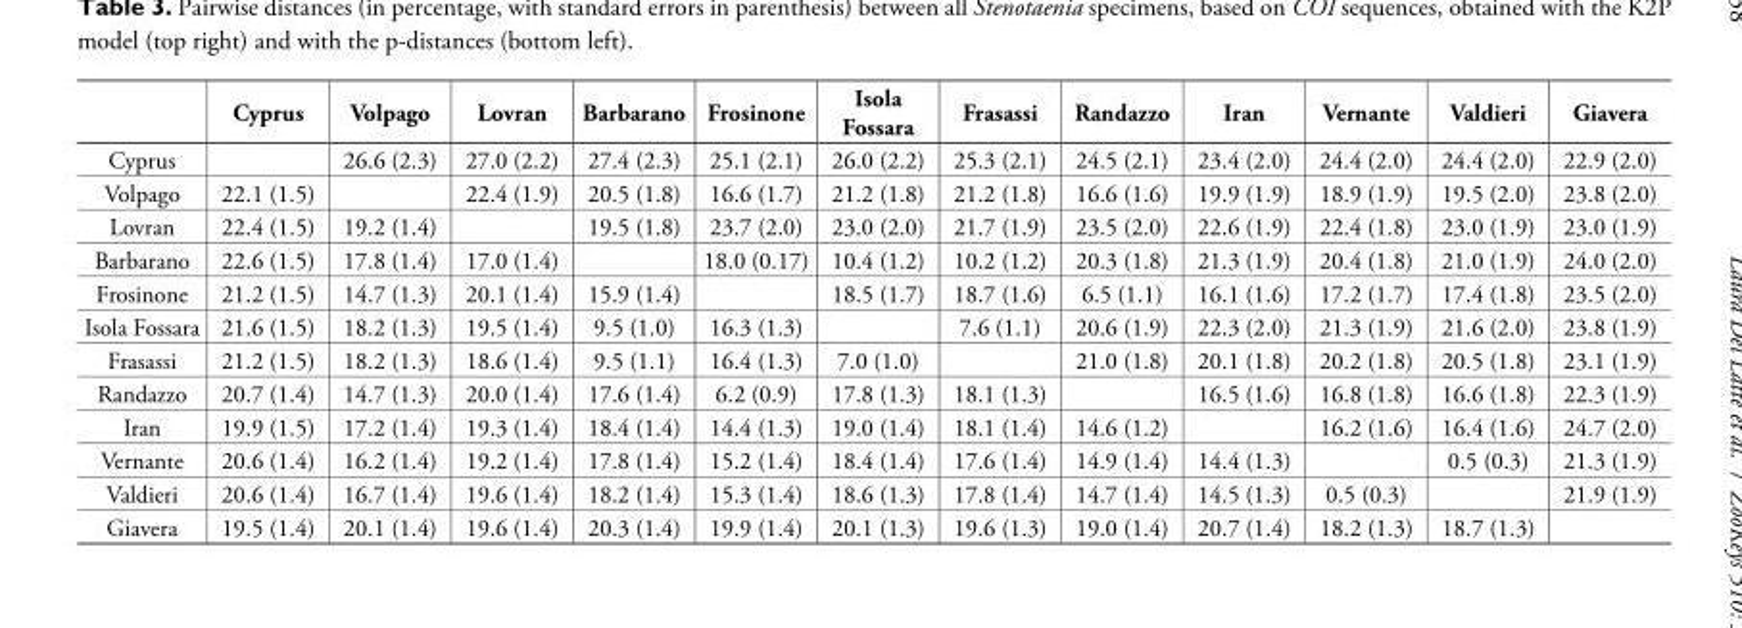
<table><thead><tr><td></td><td>Cyprus</td><td>Volpago</td><td>Lovran</td><td>Barbarano</td><td>Frosinone</td><td>Isola Fossara</td><td>Frasassi</td><td>Randazzo</td><td>Iran</td><td>Vernante</td><td>Valdieri</td><td>Giavera</td></tr></thead><tbody><tr><td>Cyprus</td><td></td><td>26.6 (2.3)</td><td>27.0 (2.2)</td><td>27.4 (2.3)</td><td>25.1 (2.1)</td><td>26.0 (2.2)</td><td>25.3 (2.1)</td><td>24.5 (2.1)</td><td>23.4 (2.0)</td><td>24.4 (2.0)</td><td>24.4 (2.0)</td><td>22.9 (2.0)</td></tr><tr><td>Volpago</td><td>22.1 (1.5)</td><td></td><td>22.4 (1.9)</td><td>20.5 (1.8)</td><td>16.6 (1.7)</td><td>21.2 (1.8)</td><td>21.2 (1.8)</td><td>16.6 (1.6)</td><td>19.9 (1.9)</td><td>18.9 (1.9)</td><td>19.5 (2.0)</td><td>23.8 (2.0)</td></tr><tr><td>Lovran</td><td>22.4 (1.5)</td><td>19.2 (1.4)</td><td></td><td>19.5 (1.8)</td><td>23.7 (2.0)</td><td>23.0 (2.0)</td><td>21.7 (1.9)</td><td>23.5 (2.0)</td><td>22.6 (1.9)</td><td>22.4 (1.8)</td><td>23.0 (1.9)</td><td>23.0 (1.9)</td></tr><tr><td>Barbarano</td><td>22.6 (1.5)</td><td>17.8 (1.4)</td><td>17.0 (1.4)</td><td></td><td>18.0 (0.17)</td><td>10.4 (1.2)</td><td>10.2 (1.2)</td><td>20.3 (1.8)</td><td>21.3 (1.9)</td><td>20.4 (1.8)</td><td>21.0 (1.9)</td><td>24.0 (2.0)</td></tr><tr><td>Frosinone</td><td>21.2 (1.5)</td><td>14.7 (1.3)</td><td>20.1 (1.4)</td><td>15.9 (1.4)</td><td></td><td>18.5 (1.7)</td><td>18.7 (1.6)</td><td>6.5 (1.1)</td><td>16.1 (1.6)</td><td>17.2 (1.7)</td><td>17.4 (1.8)</td><td>23.5 (2.0)</td></tr><tr><td>Isola Fossara</td><td>21.6 (1.5)</td><td>18.2 (1.3)</td><td>19.5 (1.4)</td><td>9.5 (1.0)</td><td>16.3 (1.3)</td><td></td><td>7.6 (1.1)</td><td>20.6 (1.9)</td><td>22.3 (2.0)</td><td>21.3 (1.9)</td><td>21.6 (2.0)</td><td>23.8 (1.9)</td></tr><tr><td>Frasassi</td><td>21.2 (1.5)</td><td>18.2 (1.3)</td><td>18.6 (1.4)</td><td>9.5 (1.1)</td><td>16.4 (1.3)</td><td>7.0 (1.0)</td><td></td><td>21.0 (1.8)</td><td>20.1 (1.8)</td><td>20.2 (1.8)</td><td>20.5 (1.8)</td><td>23.1 (1.9)</td></tr><tr><td>Randazzo</td><td>20.7 (1.4)</td><td>14.7 (1.3)</td><td>20.0 (1.4)</td><td>17.6 (1.4)</td><td>6.2 (0.9)</td><td>17.8 (1.3)</td><td>18.1 (1.3)</td><td></td><td>16.5 (1.6)</td><td>16.8 (1.8)</td><td>16.6 (1.8)</td><td>22.3 (1.9)</td></tr><tr><td>Iran</td><td>19.9 (1.5)</td><td>17.2 (1.4)</td><td>19.3 (1.4)</td><td>18.4 (1.4)</td><td>14.4 (1.3)</td><td>19.0 (1.4)</td><td>18.1 (1.4)</td><td>14.6 (1.2)</td><td></td><td>16.2 (1.6)</td><td>16.4 (1.6)</td><td>24.7 (2.0)</td></tr><tr><td>Vernante</td><td>20.6 (1.4)</td><td>16.2 (1.4)</td><td>19.2 (1.4)</td><td>17.8 (1.4)</td><td>15.2 (1.4)</td><td>18.4 (1.4)</td><td>17.6 (1.4)</td><td>14.9 (1.4)</td><td>14.4 (1.3)</td><td></td><td>0.5 (0.3)</td><td>21.3 (1.9)</td></tr><tr><td>Valdieri</td><td>20.6 (1.4)</td><td>16.7 (1.4)</td><td>19.6 (1.4)</td><td>18.2 (1.4)</td><td>15.3 (1.4)</td><td>18.6 (1.3)</td><td>17.8 (1.4)</td><td>14.7 (1.4)</td><td>14.5 (1.3)</td><td>0.5 (0.3)</td><td></td><td>21.9 (1.9)</td></tr><tr><td>Giavera</td><td>19.5 (1.4)</td><td>20.1 (1.4)</td><td>19.6 (1.4)</td><td>20.3 (1.4)</td><td>19.9 (1.4)</td><td>20.1 (1.3)</td><td>19.6 (1.3)</td><td>19.0 (1.4)</td><td>20.7 (1.4)</td><td>18.2 (1.3)</td><td>18.7 (1.3)</td><td></td></tr></tbody></table>